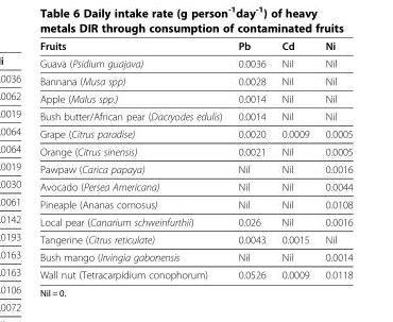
<table><thead><tr><td>Fruits</td><td>Pb</td><td>Cd</td><td>Ni</td></tr></thead><tbody><tr><td>Guava (Psidium guajava)</td><td>0.0036</td><td>Nil</td><td>Nil</td></tr><tr><td>Bannana (Musa spp)</td><td>0.0028</td><td>Nil</td><td>Nil</td></tr><tr><td>Apple (Malus spp.)</td><td>0.0014</td><td>Nil</td><td>Nil</td></tr><tr><td>Bush butter/African pear (Dacryodes edulis)</td><td>0.0014</td><td>Nil</td><td>Nil</td></tr><tr><td>Grape (Citrus paradise)</td><td>0.0020</td><td>0.0009</td><td>0.0005</td></tr><tr><td>Orange (Citrus sinensis)</td><td>0.0021</td><td>Nil</td><td>0.0005</td></tr><tr><td>Pawpaw (Carica papaya)</td><td>Nil</td><td>Nil</td><td>0.0016</td></tr><tr><td>Avocado (Persea Americana)</td><td>Nil</td><td>Nil</td><td>0.0044</td></tr><tr><td>Pineaple (Ananas comosus)</td><td>Nil</td><td>Nil</td><td>0.0108</td></tr><tr><td>Local pear (Canarium schweinfurthii)</td><td>0.026</td><td>Nil</td><td>0.0016</td></tr><tr><td>Tangerine (Citrus reticulate)</td><td>0.0043</td><td>0.0015</td><td>Nil</td></tr><tr><td>Bush mango (Irvingia gabonensis</td><td>Nil</td><td>Nil</td><td>0.0014</td></tr><tr><td>Wall nut (Tetracarpidium conophorum)</td><td>0.0526</td><td>0.0009</td><td>0.0118</td></tr></tbody></table>